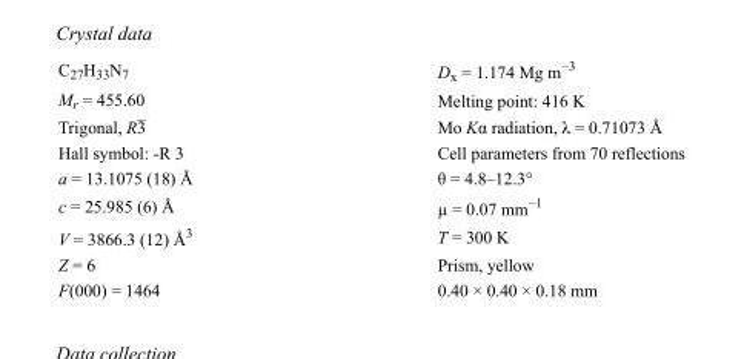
<table><tbody><tr><td>C<sub>27</sub>H<sub>33</sub>N<sub>7</sub></td><td>D<sub>x</sub> = 1.174 Mg m<sup>−3</sup></td></tr><tr><td>M<sub>r</sub> = 455.60</td><td>Melting point: 416 K</td></tr><tr><td>Trigonal, R3</td><td>Mo Kα radiation, λ = 0.71073 Å</td></tr><tr><td>Hall symbol: -R 3</td><td>Cell parameters from 70 reflections</td></tr><tr><td>a = 13.1075 (18) Å</td><td>θ = 4.8–12.3°</td></tr><tr><td>c = 25.985 (6) Å</td><td>µ = 0.07 mm<sup>−1</sup></td></tr><tr><td>V = 3866.3 (12) Å<sup>3</sup></td><td>T = 300 K</td></tr><tr><td>Z = 6</td><td>Prism, yellow</td></tr><tr><td>F(000) = 1464</td><td>0.40 × 0.40 × 0.18 mm</td></tr></tbody></table>